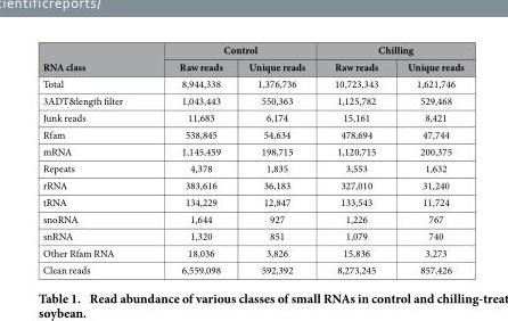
<table><thead><tr><td rowspan="2">RNA class</td><td colspan="2">Control</td><td colspan="2">Chilling</td></tr><tr><td>Raw reads</td><td>Unique reads</td><td>Raw reads</td><td>Unique reads</td></tr></thead><tbody><tr><td>Total</td><td>8,944,338</td><td>1,376,736</td><td>10,723,343</td><td>1,621,746</td></tr><tr><td>3ADT&amp;length filter</td><td>1,043,443</td><td>550,363</td><td>1,125,782</td><td>529,468</td></tr><tr><td>Junk reads</td><td>11,683</td><td>6,174</td><td>15,161</td><td>8,421</td></tr><tr><td>Rfam</td><td>538,845</td><td>54,634</td><td>478,694</td><td>47,744</td></tr><tr><td>mRNA</td><td>1,145,459</td><td>198,715</td><td>1,120,715</td><td>200,375</td></tr><tr><td>Repeats</td><td>4,378</td><td>1,835</td><td>3,553</td><td>1,632</td></tr><tr><td>rRNA</td><td>383,616</td><td>36,183</td><td>327,010</td><td>31,240</td></tr><tr><td>tRNA</td><td>134,229</td><td>12,847</td><td>133,543</td><td>11,724</td></tr><tr><td>snoRNA</td><td>1,644</td><td>927</td><td>1,226</td><td>767</td></tr><tr><td>snRNA</td><td>1,320</td><td>851</td><td>1,079</td><td>740</td></tr><tr><td>Other Rfam RNA</td><td>18,036</td><td>3,826</td><td>15,836</td><td>3,273</td></tr><tr><td>Clean reads</td><td>6,559,098</td><td>592,392</td><td>8,273,245</td><td>857,426</td></tr></tbody></table>